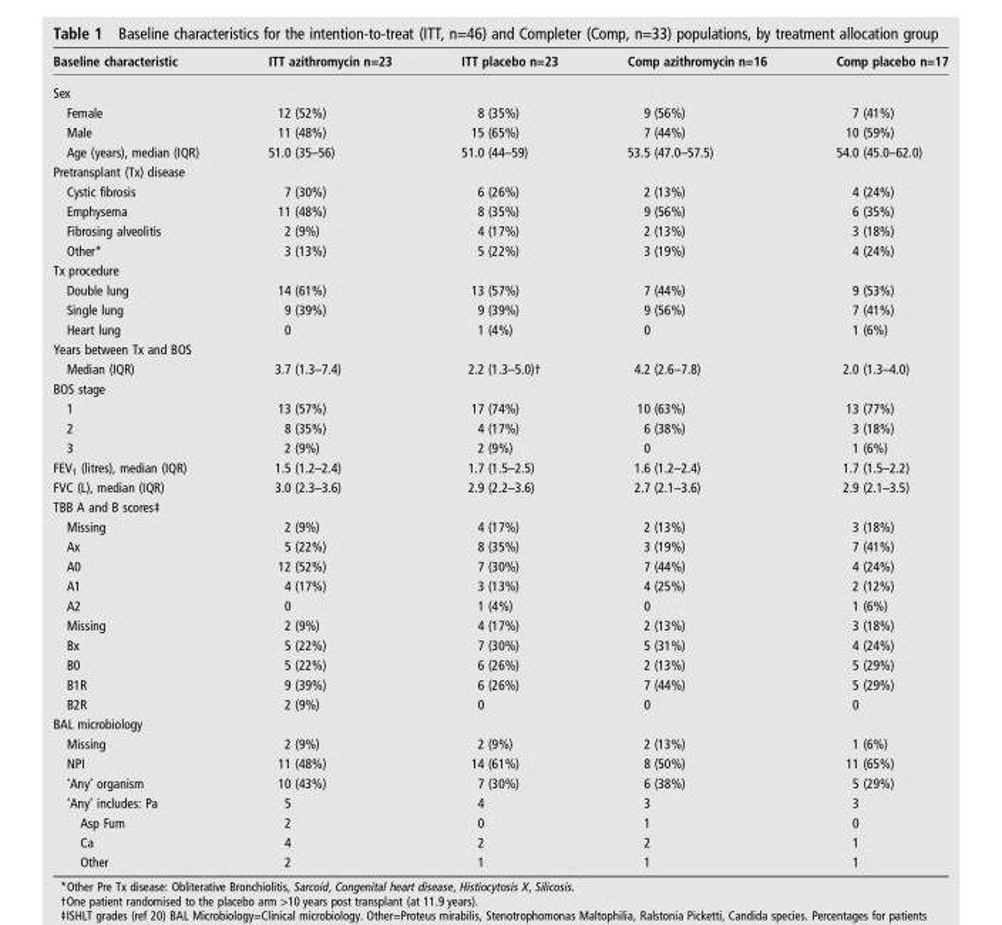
<table><thead><tr><td>Baseline characteristic</td><td>ITT azithromycin n=23</td><td>ITT placebo n=23</td><td>Comp azithromycin n=16</td><td>Comp placebo n=17</td></tr></thead><tbody><tr><td colspan="5">Sex</td></tr><tr><td>Female</td><td>12 (52%)</td><td>8 (35%)</td><td>9 (56%)</td><td>7 (41%)</td></tr><tr><td>Male</td><td>11 (48%)</td><td>15 (65%)</td><td>7 (44%)</td><td>10 (59%)</td></tr><tr><td>Age (years), median (IQR)</td><td>51.0 (35–56)</td><td>51.0 (44–59)</td><td>53.5 (47.0–57.5)</td><td>54.0 (45.0–62.0)</td></tr><tr><td colspan="5">Pretransplant (Tx) disease</td></tr><tr><td>Cystic fibrosis</td><td>7 (30%)</td><td>6 (26%)</td><td>2 (13%)</td><td>4 (24%)</td></tr><tr><td>Emphysema</td><td>11 (48%)</td><td>8 (35%)</td><td>9 (56%)</td><td>6 (35%)</td></tr><tr><td>Fibrosing alveolitis</td><td>2 (9%)</td><td>4 (17%)</td><td>2 (13%)</td><td>3 (18%)</td></tr><tr><td>Other*</td><td>3 (13%)</td><td>5 (22%)</td><td>3 (19%)</td><td>4 (24%)</td></tr><tr><td colspan="5">Tx procedure</td></tr><tr><td>Double lung</td><td>14 (61%)</td><td>13 (57%)</td><td>7 (44%)</td><td>9 (53%)</td></tr><tr><td>Single lung</td><td>9 (39%)</td><td>9 (39%)</td><td>9 (56%)</td><td>7 (41%)</td></tr><tr><td>Heart lung</td><td>0</td><td>1 (4%)</td><td>0</td><td>1 (6%)</td></tr><tr><td colspan="5">Years between Tx and BOS</td></tr><tr><td>Median (IQR)</td><td>3.7 (1.3–7.4)</td><td>2.2 (1.3–5.0)†</td><td>4.2 (2.6–7.8)</td><td>2.0 (1.3–4.0)</td></tr><tr><td colspan="5">BOS stage</td></tr><tr><td>1</td><td>13 (57%)</td><td>17 (74%)</td><td>10 (63%)</td><td>13 (77%)</td></tr><tr><td>2</td><td>8 (35%)</td><td>4 (17%)</td><td>6 (38%)</td><td>3 (18%)</td></tr><tr><td>3</td><td>2 (9%)</td><td>2 (9%)</td><td>0</td><td>1 (6%)</td></tr><tr><td>FEV<sub>1</sub> (litres), median (IQR)</td><td>1.5 (1.2–2.4)</td><td>1.7 (1.5–2.5)</td><td>1.6 (1.2–2.4)</td><td>1.7 (1.5–2.2)</td></tr><tr><td>FVC (L), median (IQR)</td><td>3.0 (2.3–3.6)</td><td>2.9 (2.2–3.6)</td><td>2.7 (2.1–3.6)</td><td>2.9 (2.1–3.5)</td></tr><tr><td colspan="5">TBB A and B scores‡</td></tr><tr><td>Missing</td><td>2 (9%)</td><td>4 (17%)</td><td>2 (13%)</td><td>3 (18%)</td></tr><tr><td>Ax</td><td>5 (22%)</td><td>8 (35%)</td><td>3 (19%)</td><td>7 (41%)</td></tr><tr><td>A0</td><td>12 (52%)</td><td>7 (30%)</td><td>7 (44%)</td><td>4 (24%)</td></tr><tr><td>A1</td><td>4 (17%)</td><td>3 (13%)</td><td>4 (25%)</td><td>2 (12%)</td></tr><tr><td>A2</td><td>0</td><td>1 (4%)</td><td>0</td><td>1 (6%)</td></tr><tr><td>Missing</td><td>2 (9%)</td><td>4 (17%)</td><td>2 (13%)</td><td>3 (18%)</td></tr><tr><td>Bx</td><td>5 (22%)</td><td>7 (30%)</td><td>5 (31%)</td><td>4 (24%)</td></tr><tr><td>B0</td><td>5 (22%)</td><td>6 (26%)</td><td>2 (13%)</td><td>5 (29%)</td></tr><tr><td>B1R</td><td>9 (39%)</td><td>6 (26%)</td><td>7 (44%)</td><td>5 (29%)</td></tr><tr><td>B2R</td><td>2 (9%)</td><td>0</td><td>0</td><td>0</td></tr><tr><td colspan="5">BAL microbiology</td></tr><tr><td>Missing</td><td>2 (9%)</td><td>2 (9%)</td><td>2 (13%)</td><td>1 (6%)</td></tr><tr><td>NPI</td><td>11 (48%)</td><td>14 (61%)</td><td>8 (50%)</td><td>11 (65%)</td></tr><tr><td>‘Any’ organism</td><td>10 (43%)</td><td>7 (30%)</td><td>6 (38%)</td><td>5 (29%)</td></tr><tr><td>‘Any’ includes: Pa</td><td>5</td><td>4</td><td>3</td><td>3</td></tr><tr><td>Asp Fum</td><td>2</td><td>0</td><td>1</td><td>0</td></tr><tr><td>Ca</td><td>4</td><td>2</td><td>2</td><td>1</td></tr><tr><td>Other</td><td>2</td><td>1</td><td>1</td><td>1</td></tr></tbody></table>